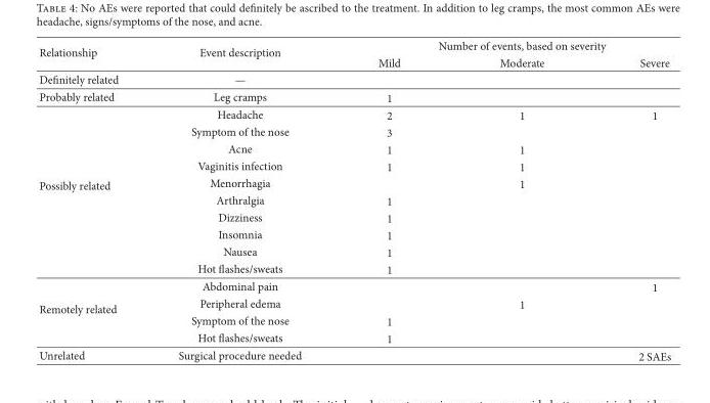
<table><thead><tr><td rowspan="2">Relationship</td><td rowspan="2">Event description</td><td colspan="3">Number of events, based on severity</td></tr><tr><td>Mild</td><td>Moderate</td><td>Severe</td></tr></thead><tbody><tr><td>Definitely related</td><td>—</td><td></td><td></td><td></td></tr><tr><td>Probably related</td><td>Leg cramps</td><td>1</td><td></td><td></td></tr><tr><td rowspan="10">Possibly related</td><td>Headache</td><td>2</td><td>1</td><td>1</td></tr><tr><td>Symptom of the nose</td><td>3</td><td></td><td></td></tr><tr><td>Acne</td><td>1</td><td>1</td><td></td></tr><tr><td>Vaginitis infection</td><td>1</td><td>1</td><td></td></tr><tr><td>Menorrhagia</td><td></td><td>1</td><td></td></tr><tr><td>Arthralgia</td><td>1</td><td></td><td></td></tr><tr><td>Dizziness</td><td>1</td><td></td><td></td></tr><tr><td>Insomnia</td><td>1</td><td></td><td></td></tr><tr><td>Nausea</td><td>1</td><td></td><td></td></tr><tr><td>Hot flashes/sweats</td><td>1</td><td></td><td></td></tr><tr><td rowspan="4">Remotely related</td><td>Abdominal pain</td><td></td><td></td><td>1</td></tr><tr><td>Peripheral edema</td><td></td><td>1</td><td></td></tr><tr><td>Symptom of the nose</td><td>1</td><td></td><td></td></tr><tr><td>Hot flashes/sweats</td><td>1</td><td></td><td></td></tr><tr><td>Unrelated</td><td>Surgical procedure needed</td><td></td><td></td><td>2 SAEs</td></tr></tbody></table>